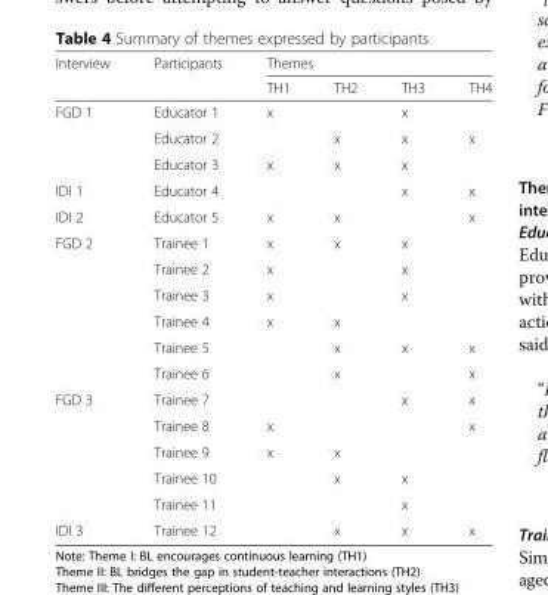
<table><thead><tr><td rowspan="2">Interview</td><td rowspan="2">Participants</td><td colspan="4">Themes</td></tr><tr><td>TH1</td><td>TH2</td><td>TH3</td><td>TH4</td></tr></thead><tbody><tr><td rowspan="3">FGD 1</td><td>Educator 1</td><td>x</td><td></td><td>x</td><td></td></tr><tr><td>Educator 2</td><td></td><td>x</td><td>x</td><td>x</td></tr><tr><td>Educator 3</td><td>x</td><td>x</td><td>x</td><td></td></tr><tr><td>IDI 1</td><td>Educator 4</td><td></td><td></td><td>x</td><td>x</td></tr><tr><td>IDI 2</td><td>Educator 5</td><td>x</td><td>x</td><td></td><td>x</td></tr><tr><td rowspan="6">FGD 2</td><td>Trainee 1</td><td>x</td><td>x</td><td>x</td><td></td></tr><tr><td>Trainee 2</td><td>x</td><td></td><td>x</td><td></td></tr><tr><td>Trainee 3</td><td>x</td><td></td><td>x</td><td></td></tr><tr><td>Trainee 4</td><td>x</td><td>x</td><td></td><td></td></tr><tr><td>Trainee 5</td><td></td><td>x</td><td>x</td><td>x</td></tr><tr><td>Trainee 6</td><td></td><td>x</td><td></td><td>x</td></tr><tr><td rowspan="5">FGD 3</td><td>Trainee 7</td><td></td><td></td><td>x</td><td>x</td></tr><tr><td>Trainee 8</td><td>x</td><td></td><td></td><td>x</td></tr><tr><td>Trainee 9</td><td>x</td><td>x</td><td></td><td></td></tr><tr><td>Trainee 10</td><td></td><td>x</td><td>x</td><td></td></tr><tr><td>Trainee 11</td><td></td><td></td><td>x</td><td></td></tr><tr><td>IDI 3</td><td>Trainee 12</td><td></td><td>x</td><td>x</td><td>x</td></tr></tbody></table>